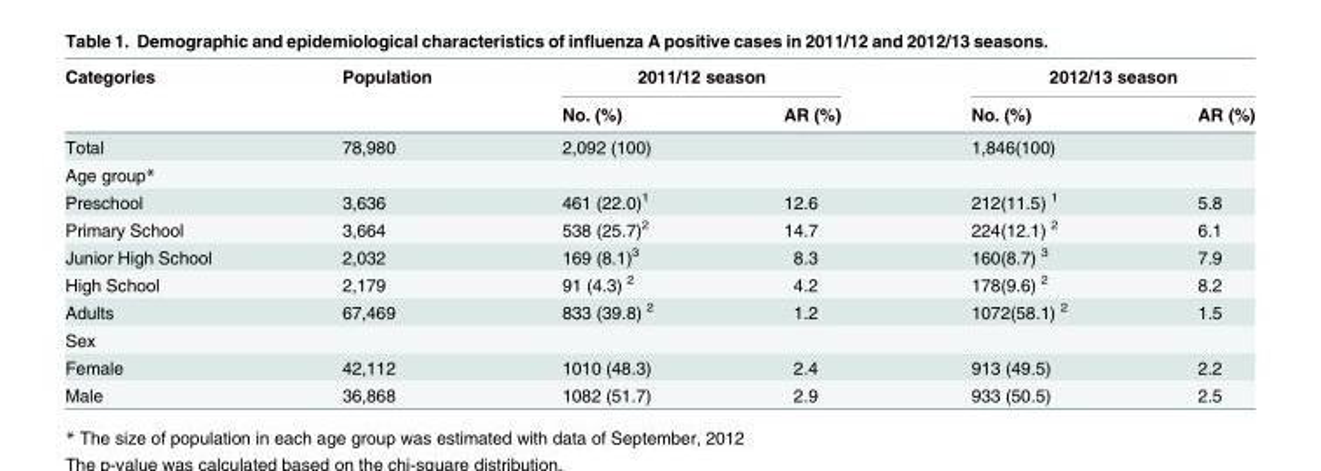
<table><thead><tr><td rowspan="2">Categories</td><td rowspan="2">Population</td><td colspan="2">2011/12 season</td><td colspan="2">2012/13 season</td></tr><tr><td>No. (%)</td><td>AR (%)</td><td>No. (%)</td><td>AR (%)</td></tr></thead><tbody><tr><td>Total</td><td>78,980</td><td>2,092 (100)</td><td></td><td>1,846(100)</td><td></td></tr><tr><td colspan="6">Age group*</td></tr><tr><td>Preschool</td><td>3,636</td><td>461 (22.0)<sup>1</sup></td><td>12.6</td><td>212(11.5) <sup>1</sup></td><td>5.8</td></tr><tr><td>Primary School</td><td>3,664</td><td>538 (25.7)<sup>2</sup></td><td>14.7</td><td>224(12.1) <sup>2</sup></td><td>6.1</td></tr><tr><td>Junior High School</td><td>2,032</td><td>169 (8.1)<sup>3</sup></td><td>8.3</td><td>160(8.7) <sup>3</sup></td><td>7.9</td></tr><tr><td>High School</td><td>2,179</td><td>91 (4.3) <sup>2</sup></td><td>4.2</td><td>178(9.6) <sup>2</sup></td><td>8.2</td></tr><tr><td>Adults</td><td>67,469</td><td>833 (39.8) <sup>2</sup></td><td>1.2</td><td>1072(58.1) <sup>2</sup></td><td>1.5</td></tr><tr><td colspan="6">Sex</td></tr><tr><td>Female</td><td>42,112</td><td>1010 (48.3)</td><td>2.4</td><td>913 (49.5)</td><td>2.2</td></tr><tr><td>Male</td><td>36,868</td><td>1082 (51.7)</td><td>2.9</td><td>933 (50.5)</td><td>2.5</td></tr></tbody></table>